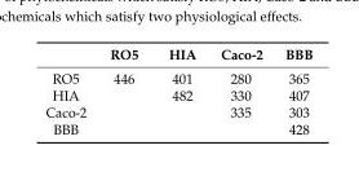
<table><thead><tr><td></td><td>RO5</td><td>HIA</td><td>Caco-2</td><td>BBB</td></tr></thead><tbody><tr><td>RO5</td><td>446</td><td>401</td><td>280</td><td>365</td></tr><tr><td>HIA</td><td></td><td>482</td><td>330</td><td>407</td></tr><tr><td>Caco-2</td><td></td><td></td><td>335</td><td>303</td></tr><tr><td>BBB</td><td></td><td></td><td></td><td>428</td></tr></tbody></table>